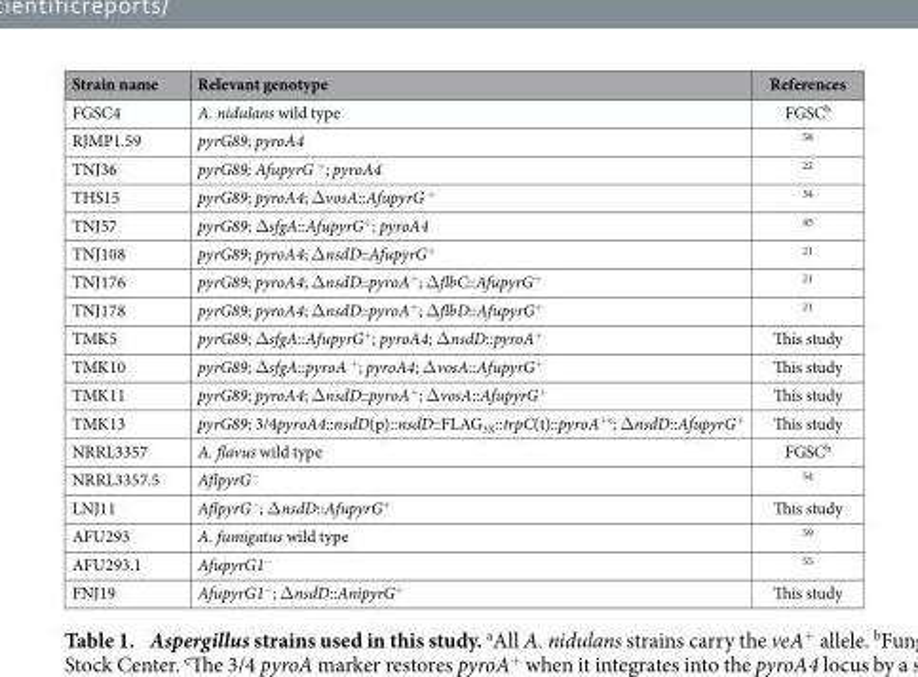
<table><thead><tr><td>Strain name</td><td>Relevant genotype</td><td>References</td></tr></thead><tbody><tr><td>FGSC4</td><td>A. nidulans wild type</td><td>FGSC<sup>b</sup></td></tr><tr><td>RJMP1.59</td><td>pyrG89; pyroA4</td><td>58</td></tr><tr><td>TNJ36</td><td>pyrG89; AfupyrG <sup>+</sup>; pyroA4</td><td>22</td></tr><tr><td>THS15</td><td>pyrG89; pyroA4; Δ vosA::AfupyrG <sup>+</sup></td><td>34</td></tr><tr><td>TNJ57</td><td>pyrG89; Δ sfgA::AfupyrG<sup>+</sup>; pyroA4</td><td>45</td></tr><tr><td>TNJ108</td><td>pyrG89; pyroA4; Δ nsdD::AfupyrG<sup>+</sup></td><td>21</td></tr><tr><td>TNJ176</td><td>pyrG89; pyroA4; Δ nsdD::pyroA<sup>+</sup>; Δ flbC::AfupyrG<sup>+</sup></td><td>21</td></tr><tr><td>TNJ178</td><td>pyrG89; pyroA4; Δ nsdD::pyroA<sup>+</sup>; Δ flbD::AfupyrG<sup>+</sup></td><td>21</td></tr><tr><td>TMK5</td><td>pyrG89; Δ sfgA::AfupyrG<sup>+</sup>; pyroA4; Δ nsdD::pyroA<sup>+</sup></td><td>This study</td></tr><tr><td>TMK10</td><td>pyrG89; Δ sfgA::pyroA <sup>+</sup>; pyroA4; Δ vosA::AfupyrG<sup>+</sup></td><td>This study</td></tr><tr><td>TMK11</td><td>pyrG89; pyroA4; Δ nsdD::pyroA<sup>+</sup>; Δ vosA::AfupyrG<sup>+</sup></td><td>This study</td></tr><tr><td>TMK13</td><td>pyrG89; 3/4pyroA4::nsdD(p)::nsdD::FLAG<sub>3X</sub>::trpC(t)::pyroA<sup>+c</sup>; Δ nsdD::AfupyrG<sup>+</sup></td><td>This study</td></tr><tr><td>NRRL3357</td><td>A. flavus wild type</td><td>FGSC<sup>b</sup></td></tr><tr><td>NRRL3357.5</td><td>AflpyrG<sup>−</sup></td><td>54</td></tr><tr><td>LNJ11</td><td>AflpyrG<sup>−</sup>; Δ nsdD::AfupyrG<sup>+</sup></td><td>This study</td></tr><tr><td>AFU293</td><td>A. fumigatus wild type</td><td>59</td></tr><tr><td>AFU293.1</td><td>AfupyrG1<sup>−</sup></td><td>55</td></tr><tr><td>FNJ19</td><td>AfupyrG1<sup>−</sup>; Δ nsdD::AnipyrG<sup>+</sup></td><td>This study</td></tr></tbody></table>